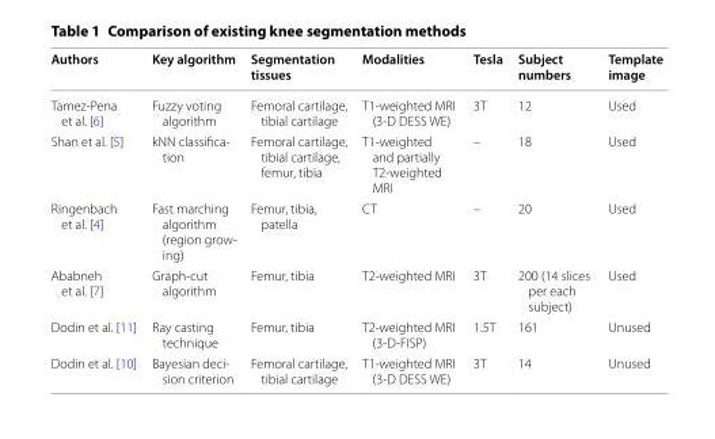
<table><thead><tr><td>Authors</td><td>Key algorithm</td><td>Segmentation tissues</td><td>Modalities</td><td>Tesla</td><td>Subject numbers</td><td>Template image</td></tr></thead><tbody><tr><td>Tamez‑Pena et al. [6]</td><td>Fuzzy voting algorithm</td><td>Femoral cartilage, tibial cartilage</td><td>T1‑weighted MRI (3‑D DESS WE)</td><td>3T</td><td>12</td><td>Used</td></tr><tr><td>Shan et al. [5]</td><td>kNN classifica‑ tion</td><td>Femoral cartilage, tibial cartilage, femur, tibia</td><td>T1‑weighted and partially T2‑weighted MRI</td><td>–</td><td>18</td><td>Used</td></tr><tr><td>Ringenbach et al. [4]</td><td>Fast marching algorithm (region grow‑ ing)</td><td>Femur, tibia, patella</td><td>CT</td><td>–</td><td>20</td><td>Used</td></tr><tr><td>Ababneh et al. [7]</td><td>Graph‑cut algorithm</td><td>Femur, tibia</td><td>T2‑weighted MRI</td><td>3T</td><td>200 (14 slices per each subject)</td><td>Used</td></tr><tr><td>Dodin et al. [11]</td><td>Ray casting technique</td><td>Femur, tibia</td><td>T2‑weighted MRI (3‑D‑FISP)</td><td>1.5T</td><td>161</td><td>Unused</td></tr><tr><td>Dodin et al. [10]</td><td>Bayesian deci‑ sion criterion</td><td>Femoral cartilage, tibial cartilage</td><td>T1‑weighted MRI (3‑D DESS WE)</td><td>3T</td><td>14</td><td>Unused</td></tr></tbody></table>